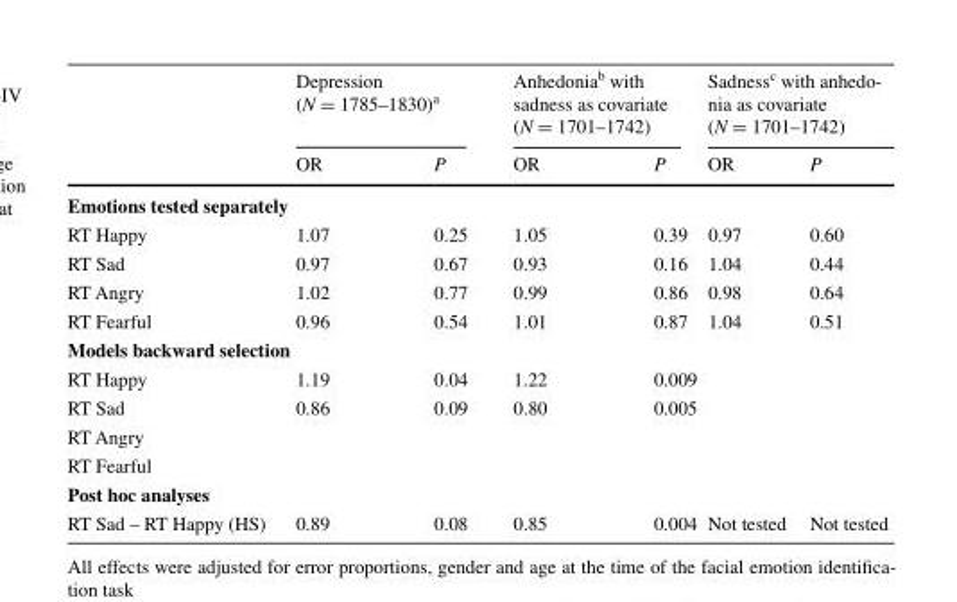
<table><thead><tr><td rowspan="2"></td><td colspan="2">Depression (N = 1785–1830)<sup>a</sup></td><td colspan="2">Anhedonia<sup>b</sup> with sadness as covariate (N = 1701–1742)</td><td colspan="2">Sadnessc with anhedo- nia as covariate (N = 1701–1742)</td></tr><tr><td>OR</td><td>P</td><td>OR</td><td>P</td><td>OR</td><td>P</td></tr></thead><tbody><tr><td colspan="7">Emotions tested separately</td></tr><tr><td>RT Happy</td><td>1.07</td><td>0.25</td><td>1.05</td><td>0.39</td><td>0.97</td><td>0.60</td></tr><tr><td>RT Sad</td><td>0.97</td><td>0.67</td><td>0.93</td><td>0.16</td><td>1.04</td><td>0.44</td></tr><tr><td>RT Angry</td><td>1.02</td><td>0.77</td><td>0.99</td><td>0.86</td><td>0.98</td><td>0.64</td></tr><tr><td>RT Fearful</td><td>0.96</td><td>0.54</td><td>1.01</td><td>0.87</td><td>1.04</td><td>0.51</td></tr><tr><td colspan="7">Models backward selection</td></tr><tr><td>RT Happy</td><td>1.19</td><td>0.04</td><td>1.22</td><td>0.009</td><td></td><td></td></tr><tr><td>RT Sad</td><td>0.86</td><td>0.09</td><td>0.80</td><td>0.005</td><td></td><td></td></tr><tr><td colspan="7">RT Angry</td></tr><tr><td colspan="7">RT Fearful</td></tr><tr><td colspan="7">Post hoc analyses</td></tr><tr><td>RT Sad – RT Happy (HS)</td><td>0.89</td><td>0.08</td><td>0.85</td><td>0.004</td><td>Not tested</td><td>Not tested</td></tr></tbody></table>